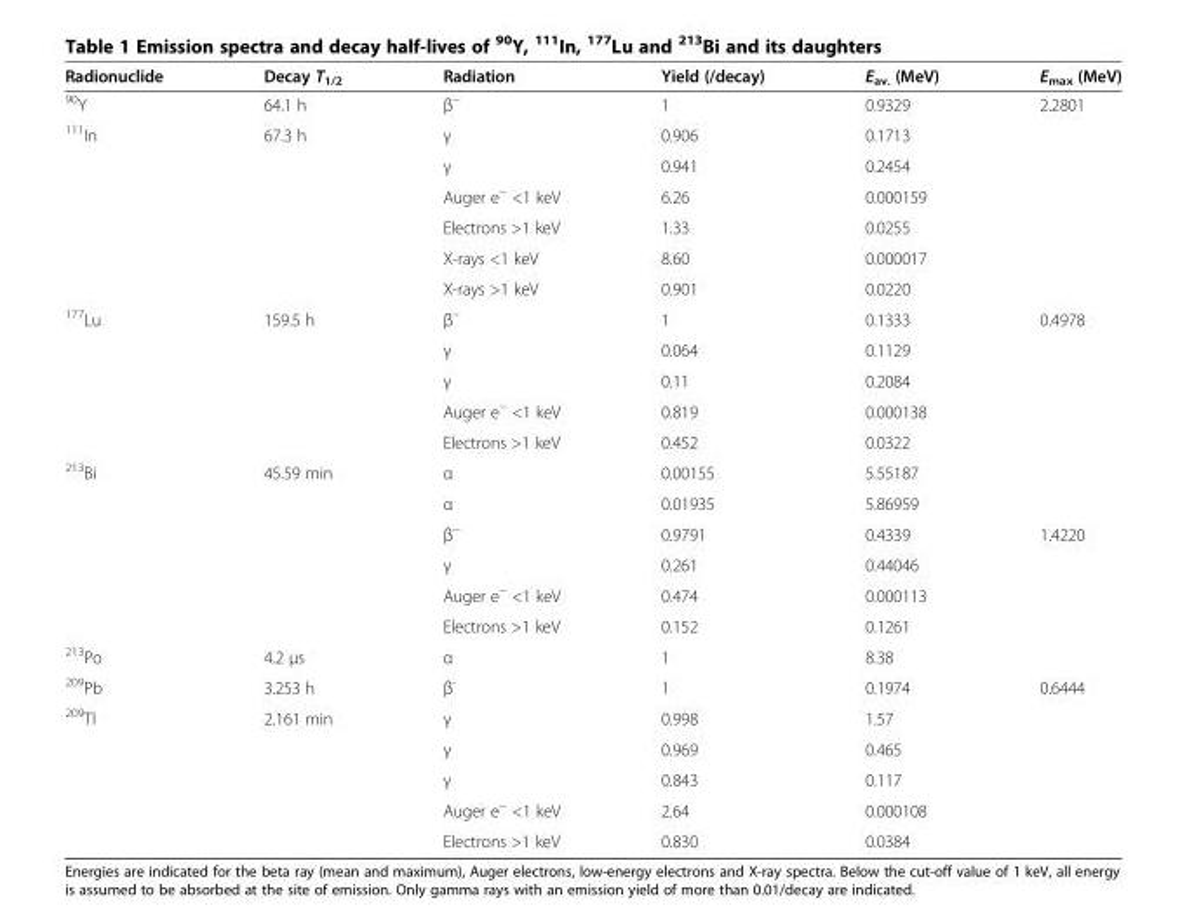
<table><thead><tr><td>Radionuclide</td><td>Decay T<sub>1/2</sub></td><td>Radiation</td><td>Yield (/decay)</td><td>E<sub>av.</sub> (MeV)</td><td>E<sub>max</sub> (MeV)</td></tr></thead><tbody><tr><td><sup>90</sup>Y</td><td>64.1 h</td><td>β<sup>−</sup></td><td>1</td><td>0.9329</td><td>2.2801</td></tr><tr><td rowspan="6"><sup>111</sup>In</td><td>67.3 h</td><td>γ</td><td>0.906</td><td>0.1713</td><td></td></tr><tr><td></td><td>γ</td><td>0.941</td><td>0.2454</td><td></td></tr><tr><td></td><td>Auger e<sup>−</sup> &lt;1 keV</td><td>6.26</td><td>0.000159</td><td></td></tr><tr><td></td><td>Electrons &gt;1 keV</td><td>1.33</td><td>0.0255</td><td></td></tr><tr><td></td><td>X-rays &lt;1 keV</td><td>8.60</td><td>0.000017</td><td></td></tr><tr><td></td><td>X-rays &gt;1 keV</td><td>0.901</td><td>0.0220</td><td></td></tr><tr><td rowspan="5"><sup>177</sup>Lu</td><td>159.5 h</td><td>β<sup>−</sup></td><td>1</td><td>0.1333</td><td>0.4978</td></tr><tr><td></td><td>γ</td><td>0.064</td><td>0.1129</td><td></td></tr><tr><td></td><td>γ</td><td>0.11</td><td>0.2084</td><td></td></tr><tr><td></td><td>Auger e<sup>−</sup> &lt;1 keV</td><td>0.819</td><td>0.000138</td><td></td></tr><tr><td></td><td>Electrons &gt;1 keV</td><td>0.452</td><td>0.0322</td><td></td></tr><tr><td rowspan="6"><sup>213</sup>Bi</td><td>45.59 min</td><td>α</td><td>0.00155</td><td>5.55187</td><td></td></tr><tr><td></td><td>α</td><td>0.01935</td><td>5.86959</td><td></td></tr><tr><td></td><td>β<sup>−</sup></td><td>0.9791</td><td>0.4339</td><td>1.4220</td></tr><tr><td></td><td>γ</td><td>0.261</td><td>0.44046</td><td></td></tr><tr><td></td><td>Auger e<sup>−</sup> &lt;1 keV</td><td>0.474</td><td>0.000113</td><td></td></tr><tr><td></td><td>Electrons &gt;1 keV</td><td>0.152</td><td>0.1261</td><td></td></tr><tr><td><sup>213</sup>Po</td><td>4.2 μs</td><td>α</td><td>1</td><td>8.38</td><td></td></tr><tr><td><sup>209</sup>Pb</td><td>3.253 h</td><td>β<sup>-</sup></td><td>1</td><td>0.1974</td><td>0.6444</td></tr><tr><td rowspan="5"><sup>209</sup>Tl</td><td>2.161 min</td><td>γ</td><td>0.998</td><td>1.57</td><td></td></tr><tr><td></td><td>γ</td><td>0.969</td><td>0.465</td><td></td></tr><tr><td></td><td>γ</td><td>0.843</td><td>0.117</td><td></td></tr><tr><td></td><td>Auger e<sup>−</sup> &lt;1 keV</td><td>2.64</td><td>0.000108</td><td></td></tr><tr><td></td><td>Electrons &gt;1 keV</td><td>0.830</td><td>0.0384</td><td></td></tr></tbody></table>